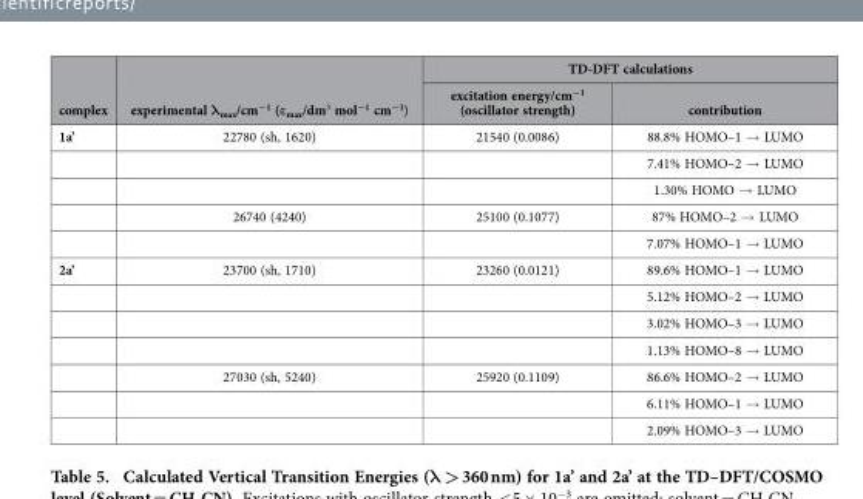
<table><thead><tr><td rowspan="2">complex</td><td rowspan="2">experimental λ<sub>max</sub>/cm<sup>−1</sup> (ε<sub>max</sub>/dm<sup>3</sup> mol<sup>−1</sup> cm<sup>−1</sup>)</td><td colspan="2">TD-DFT calculations</td></tr><tr><td>excitation energy/cm<sup>−1</sup> (oscillator strength)</td><td>contribution</td></tr></thead><tbody><tr><td rowspan="5">1a’</td><td>22780 (sh, 1620)</td><td>21540 (0.0086)</td><td>88.8% HOMO–1 → LUMO</td></tr><tr><td></td><td></td><td>7.41% HOMO–2 → LUMO</td></tr><tr><td></td><td></td><td>1.30% HOMO → LUMO</td></tr><tr><td>26740 (4240)</td><td>25100 (0.1077)</td><td>87% HOMO–2 → LUMO</td></tr><tr><td></td><td></td><td>7.07% HOMO–1 → LUMO</td></tr><tr><td rowspan="7">2a’</td><td>23700 (sh, 1710)</td><td>23260 (0.0121)</td><td>89.6% HOMO–1 → LUMO</td></tr><tr><td></td><td></td><td>5.12% HOMO–2 → LUMO</td></tr><tr><td></td><td></td><td>3.02% HOMO–3 → LUMO</td></tr><tr><td></td><td></td><td>1.13% HOMO–8 → LUMO</td></tr><tr><td>27030 (sh, 5240)</td><td>25920 (0.1109)</td><td>86.6% HOMO–2 → LUMO</td></tr><tr><td></td><td></td><td>6.11% HOMO–1 → LUMO</td></tr><tr><td></td><td></td><td>2.09% HOMO–3 → LUMO</td></tr></tbody></table>